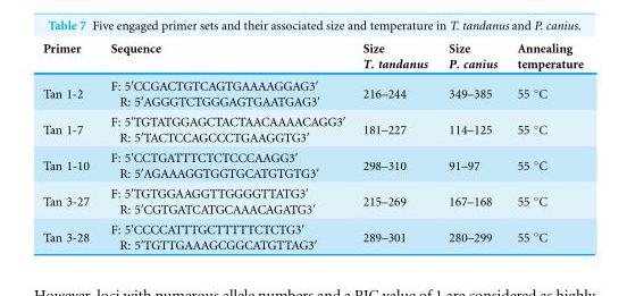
<table><thead><tr><td>Primer</td><td>Sequence</td><td>Size T. tandanus</td><td>Size P. canius</td><td>Annealing temperature</td></tr></thead><tbody><tr><td>Tan 1-2</td><td>F: 5′CCGACTGTCAGTGAAAAGGAG3′ R: 5′AGGGTCTGGGAGTGAATGAG3′</td><td>216–244</td><td>349–385</td><td>55 °C</td></tr><tr><td>Tan 1-7</td><td>F: 5′TGTATGGAGCTACTAACAAAACAGG3′ R: 5′TACTCCAGCCCTGAAGGTG3′</td><td>181–227</td><td>114–125</td><td>55 °C</td></tr><tr><td>Tan 1-10</td><td>F: 5′CCTGATTTCTCTCCCAAGG3′ R: 5′AGAAAGGTGGTGCATGTGTG3′</td><td>298–310</td><td>91–97</td><td>55 °C</td></tr><tr><td>Tan 3-27</td><td>F: 5′TGTGGAAGGTTGGGGTTATG3′ R: 5′CGTGATCATGCAAACAGATG3′</td><td>215–269</td><td>167–168</td><td>55 °C</td></tr><tr><td>Tan 3-28</td><td>F: 5′CCCCATTTGCTTTTTCTCTG3′ R: 5′TGTTGAAAGCGGCATGTTAG3′</td><td>289–301</td><td>280–299</td><td>55 °C</td></tr></tbody></table>